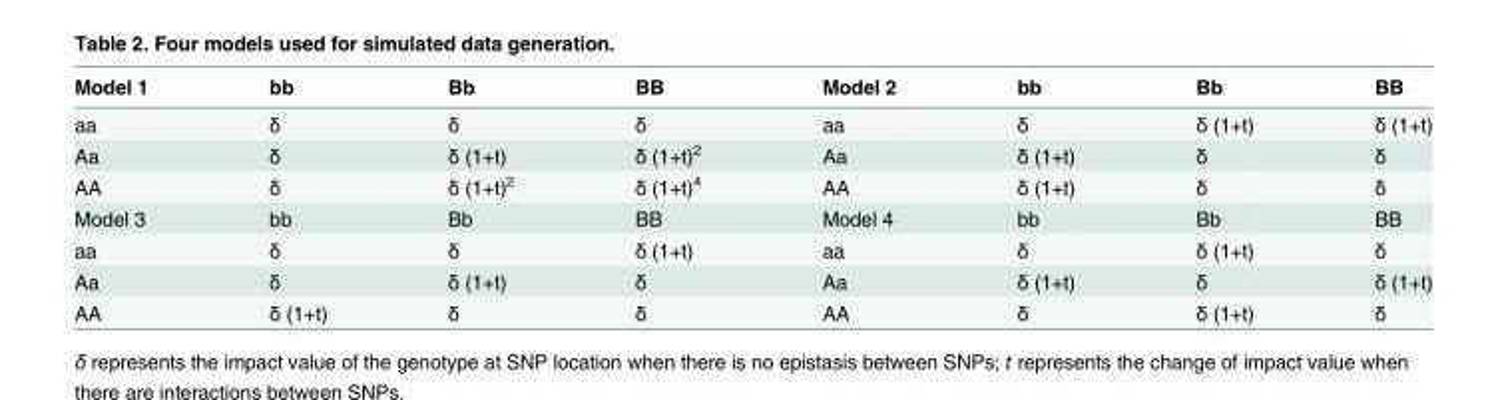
<table><thead><tr><td>Model 1</td><td>bb</td><td>Bb</td><td>BB</td><td>Model 2</td><td>bb</td><td>Bb</td><td>BB</td></tr></thead><tbody><tr><td>aa</td><td>δ</td><td>δ</td><td>δ</td><td>aa</td><td>δ</td><td>δ (1+t)</td><td>δ (1+t)</td></tr><tr><td>Aa</td><td>δ</td><td>δ (1+t)</td><td>δ (1+t)<sup>2</sup></td><td>Aa</td><td>δ (1+t)</td><td>δ</td><td>δ</td></tr><tr><td>AA</td><td>δ</td><td>δ (1+t)<sup>2</sup></td><td>δ (1+t)<sup>4</sup></td><td>AA</td><td>δ (1+t)</td><td>δ</td><td>δ</td></tr><tr><td>Model 3</td><td>bb</td><td>Bb</td><td>BB</td><td>Model 4</td><td>bb</td><td>Bb</td><td>BB</td></tr><tr><td>aa</td><td>δ</td><td>δ</td><td>δ (1+t)</td><td>aa</td><td>δ</td><td>δ (1+t)</td><td>δ</td></tr><tr><td>Aa</td><td>δ</td><td>δ (1+t)</td><td>δ</td><td>Aa</td><td>δ (1+t)</td><td>δ</td><td>δ (1+t)</td></tr><tr><td>AA</td><td>δ (1+t)</td><td>δ</td><td>δ</td><td>AA</td><td>δ</td><td>δ (1+t)</td><td>δ</td></tr></tbody></table>